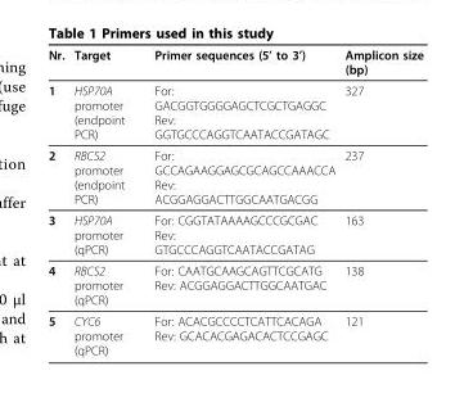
<table><thead><tr><td>Nr.</td><td>Target</td><td>Primer sequences (5’ to 3’)</td><td>Amplicon size (bp)</td></tr></thead><tbody><tr><td>1</td><td>HSP70A promoter (endpoint PCR)</td><td>For: GACGGTGGGGAGCTCGCTGAGGC Rev: GGTGCCCAGGTCAATACCGATAGC</td><td>327</td></tr><tr><td>2</td><td>RBCS2 promoter (endpoint PCR)</td><td>For: GCCAGAAGGAGCGCAGCCAAACCA Rev: ACGGAGGACTTGGCAATGACGG</td><td>237</td></tr><tr><td>3</td><td>HSP70A promoter (qPCR)</td><td>For: CGGTATAAAAGCCCGCGAC Rev: GTGCCCAGGTCAATACCGATAG</td><td>163</td></tr><tr><td>4</td><td>RBCS2 promoter (qPCR)</td><td>For: CAATGCAAGCAGTTCGCATG Rev: ACGGAGGACTTGGCAATGAC</td><td>138</td></tr><tr><td>5</td><td>CYC6 promoter (qPCR)</td><td>For: ACACGCCCCTCATTCACAGA Rev: GCACACGAGACACTCCGAGC</td><td>121</td></tr></tbody></table>